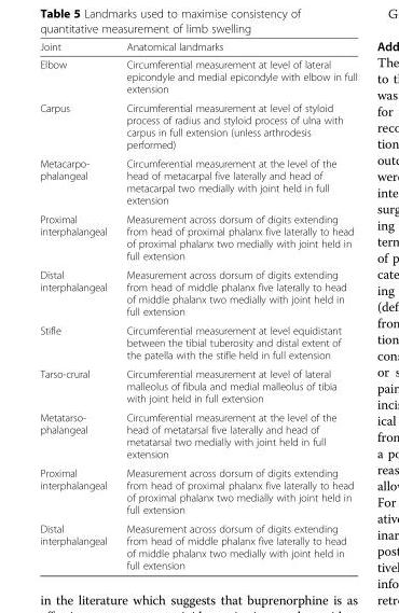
<table><thead><tr><td>Joint</td><td>Anatomical landmarks</td></tr></thead><tbody><tr><td>Elbow</td><td>Circumferential measurement at level of lateral epicondyle and medial epicondyle with elbow in full extension</td></tr><tr><td>Carpus</td><td>Circumferential measurement at level of styloid process of radius and styloid process of ulna with carpus in full extension (unless arthrodesis performed)</td></tr><tr><td>Metacarpo- phalangeal</td><td>Circumferential measurement at the level of the head of metacarpal five laterally and head of metacarpal two medially with joint held in full extension</td></tr><tr><td>Proximal interphalangeal</td><td>Measurement across dorsum of digits extending from head of proximal phalanx five laterally to head of proximal phalanx two medially with joint held in full extension</td></tr><tr><td>Distal interphalangeal</td><td>Measurement across dorsum of digits extending from head of middle phalanx five laterally to head of middle phalanx two medially with joint held in full extension</td></tr><tr><td>Stifle</td><td>Circumferential measurement at level equidistant between the tibial tuberosity and distal extent of the patella with the stifle held in full extension</td></tr><tr><td>Tarso-crural</td><td>Circumferential measurement at level of lateral malleolus of fibula and medial malleolus of tibia with joint held in full extension</td></tr><tr><td>Metatarso- phalangeal</td><td>Circumferential measurement at the level of the head of metatarsal five laterally and head of metatarsal two medially with joint held in full extension</td></tr><tr><td>Proximal interphalangeal</td><td>Measurement across dorsum of digits extending from head of proximal phalanx five laterally to head of proximal phalanx two medially with joint held in full extension</td></tr><tr><td>Distal interphalangeal</td><td>Measurement across dorsum of digits extending from head of middle phalanx five laterally to head of middle phalanx two medially with joint held in full extension</td></tr></tbody></table>